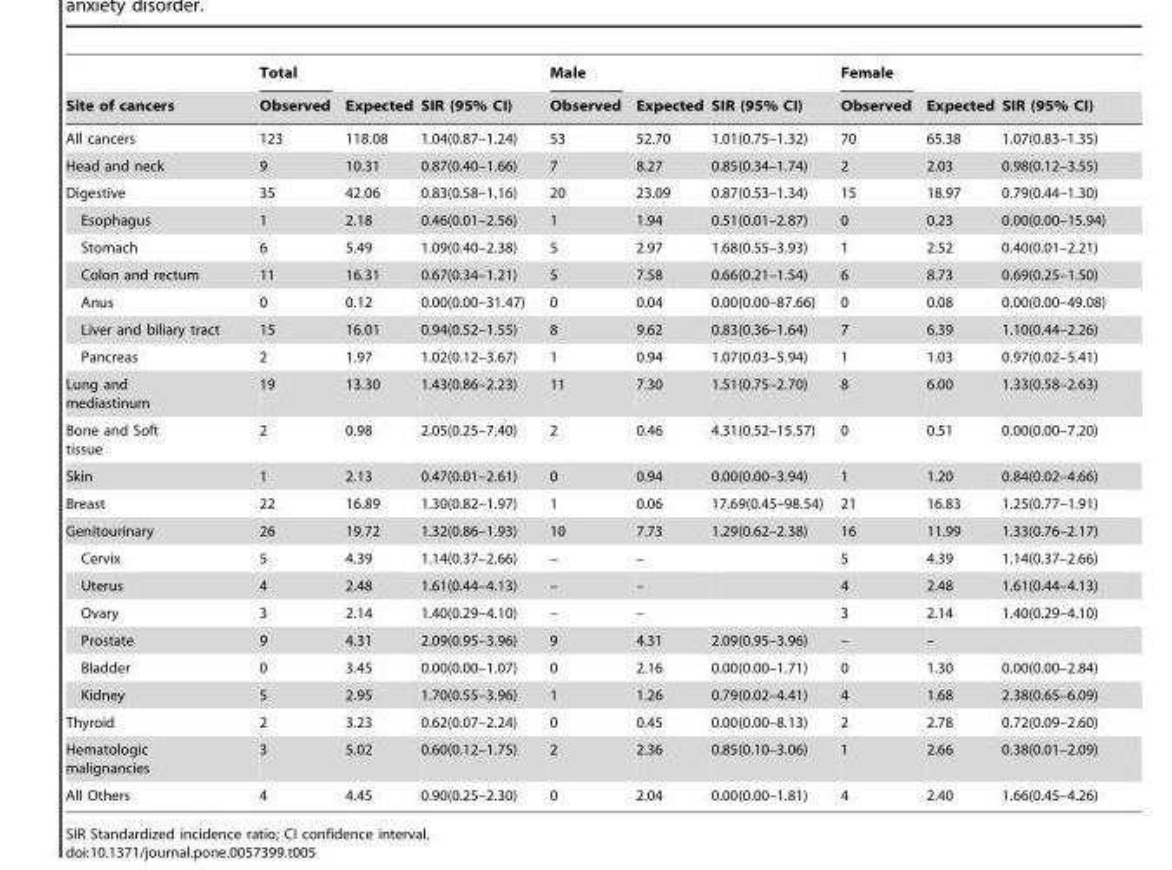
<table><thead><tr><td rowspan="2">Site of cancers</td><td rowspan="2">Total Observed</td><td rowspan="2">Expected</td><td rowspan="2">SIR (95% CI)</td><td rowspan="2">Male Observed</td><td rowspan="2">Expected</td><td rowspan="2">SIR (95% CI)</td><td rowspan="2">Female Observed</td><td rowspan="2">Expected</td><td rowspan="2">SIR (95% CI)</td></tr><tr></tr></thead><tbody><tr><td>All cancers</td><td>123</td><td>118.08</td><td>1.04(0.87–1.24)</td><td>53</td><td>52.70</td><td>1.01(0.75–1.32)</td><td>70</td><td>65.38</td><td>1.07(0.83–1.35)</td></tr><tr><td>Head and neck</td><td>9</td><td>10.31</td><td>0.87(0.40–1.66)</td><td>7</td><td>8.27</td><td>0.85(0.34–1.74)</td><td>2</td><td>2.03</td><td>0.98(0.12–3.55)</td></tr><tr><td>Digestive</td><td>35</td><td>42.06</td><td>0.83(0.58–1.16)</td><td>20</td><td>23.09</td><td>0.87(0.53–1.34)</td><td>15</td><td>18.97</td><td>0.79(0.44–1.30)</td></tr><tr><td>Esophagus</td><td>1</td><td>2.18</td><td>0.46(0.01–2.56)</td><td>1</td><td>1.94</td><td>0.51(0.01–2.87)</td><td>0</td><td>0.23</td><td>0.00(0.00–15.94)</td></tr><tr><td>Stomach</td><td>6</td><td>5.49</td><td>1.09(0.40–2.38)</td><td>5</td><td>2.97</td><td>1.68(0.55–3.93)</td><td>1</td><td>2.52</td><td>0.40(0.01–2.21)</td></tr><tr><td>Colon and rectum</td><td>11</td><td>16.31</td><td>0.67(0.34–1.21)</td><td>5</td><td>7.58</td><td>0.66(0.21–1.54)</td><td>6</td><td>8.73</td><td>0.69(0.25–1.50)</td></tr><tr><td>Anus</td><td>0</td><td>0.12</td><td>0.00(0.00–31.47)</td><td>0</td><td>0.04</td><td>0.00(0.00–87.66)</td><td>0</td><td>0.08</td><td>0.00(0.00–49.08)</td></tr><tr><td>Liver and biliary tract</td><td>15</td><td>16.01</td><td>0.94(0.52–1.55)</td><td>8</td><td>9.62</td><td>0.83(0.36–1.64)</td><td>7</td><td>6.39</td><td>1.10(0.44–2.26)</td></tr><tr><td>Pancreas</td><td>2</td><td>1.97</td><td>1.02(0.12–3.67)</td><td>1</td><td>0.94</td><td>1.07(0.03–5.94)</td><td>1</td><td>1.03</td><td>0.97(0.02–5.41)</td></tr><tr><td>Lung and mediastinum</td><td>19</td><td>13.30</td><td>1.43(0.86–2.23)</td><td>11</td><td>7.30</td><td>1.51(0.75–2.70)</td><td>8</td><td>6.00</td><td>1.33(0.58–2.63)</td></tr><tr><td>Bone and Soft tissue</td><td>2</td><td>0.98</td><td>2.05(0.25–7.40)</td><td>2</td><td>0.46</td><td>4.31(0.52–15.57)</td><td>0</td><td>0.51</td><td>0.00(0.00–7.20)</td></tr><tr><td>Skin</td><td>1</td><td>2.13</td><td>0.47(0.01–2.61)</td><td>0</td><td>0.94</td><td>0.00(0.00–3.94)</td><td>1</td><td>1.20</td><td>0.84(0.02–4.66)</td></tr><tr><td>Breast</td><td>22</td><td>16.89</td><td>1.30(0.82–1.97)</td><td>1</td><td>0.06</td><td>17.69(0.45–98.54)</td><td>21</td><td>16.83</td><td>1.25(0.77–1.91)</td></tr><tr><td>Genitourinary</td><td>26</td><td>19.72</td><td>1.32(0.86–1.93)</td><td>10</td><td>7.73</td><td>1.29(0.62–2.38)</td><td>16</td><td>11.99</td><td>1.33(0.76–2.17)</td></tr><tr><td>Cervix</td><td>5</td><td>4.39</td><td>1.14(0.37–2.66)</td><td>–</td><td>–</td><td></td><td>5</td><td>4.39</td><td>1.14(0.37–2.66)</td></tr><tr><td>Uterus</td><td>4</td><td>2.48</td><td>1.61(0.44–4.13)</td><td>–</td><td>–</td><td></td><td>4</td><td>2.48</td><td>1.61(0.44–4.13)</td></tr><tr><td>Ovary</td><td>3</td><td>2.14</td><td>1.40(0.29–4.10)</td><td>–</td><td>–</td><td></td><td>3</td><td>2.14</td><td>1.40(0.29–4.10)</td></tr><tr><td>Prostate</td><td>9</td><td>4.31</td><td>2.09(0.95–3.96)</td><td>9</td><td>4.31</td><td>2.09(0.95–3.96)</td><td>–</td><td>–</td><td></td></tr><tr><td>Bladder</td><td>0</td><td>3.45</td><td>0.00(0.00–1.07)</td><td>0</td><td>2.16</td><td>0.00(0.00–1.71)</td><td>0</td><td>1.30</td><td>0.00(0.00–2.84)</td></tr><tr><td>Kidney</td><td>5</td><td>2.95</td><td>1.70(0.55–3.96)</td><td>1</td><td>1.26</td><td>0.79(0.02–4.41)</td><td>4</td><td>1.68</td><td>2.38(0.65–6.09)</td></tr><tr><td>Thyroid</td><td>2</td><td>3.23</td><td>0.62(0.07–2.24)</td><td>0</td><td>0.45</td><td>0.00(0.00–8.13)</td><td>2</td><td>2.78</td><td>0.72(0.09–2.60)</td></tr><tr><td>Hematologic malignancies</td><td>3</td><td>5.02</td><td>0.60(0.12–1.75)</td><td>2</td><td>2.36</td><td>0.85(0.10–3.06)</td><td>1</td><td>2.66</td><td>0.38(0.01–2.09)</td></tr><tr><td>All Others</td><td>4</td><td>4.45</td><td>0.90(0.25–2.30)</td><td>0</td><td>2.04</td><td>0.00(0.00–1.81)</td><td>4</td><td>2.40</td><td>1.66(0.45–4.26)</td></tr></tbody></table>